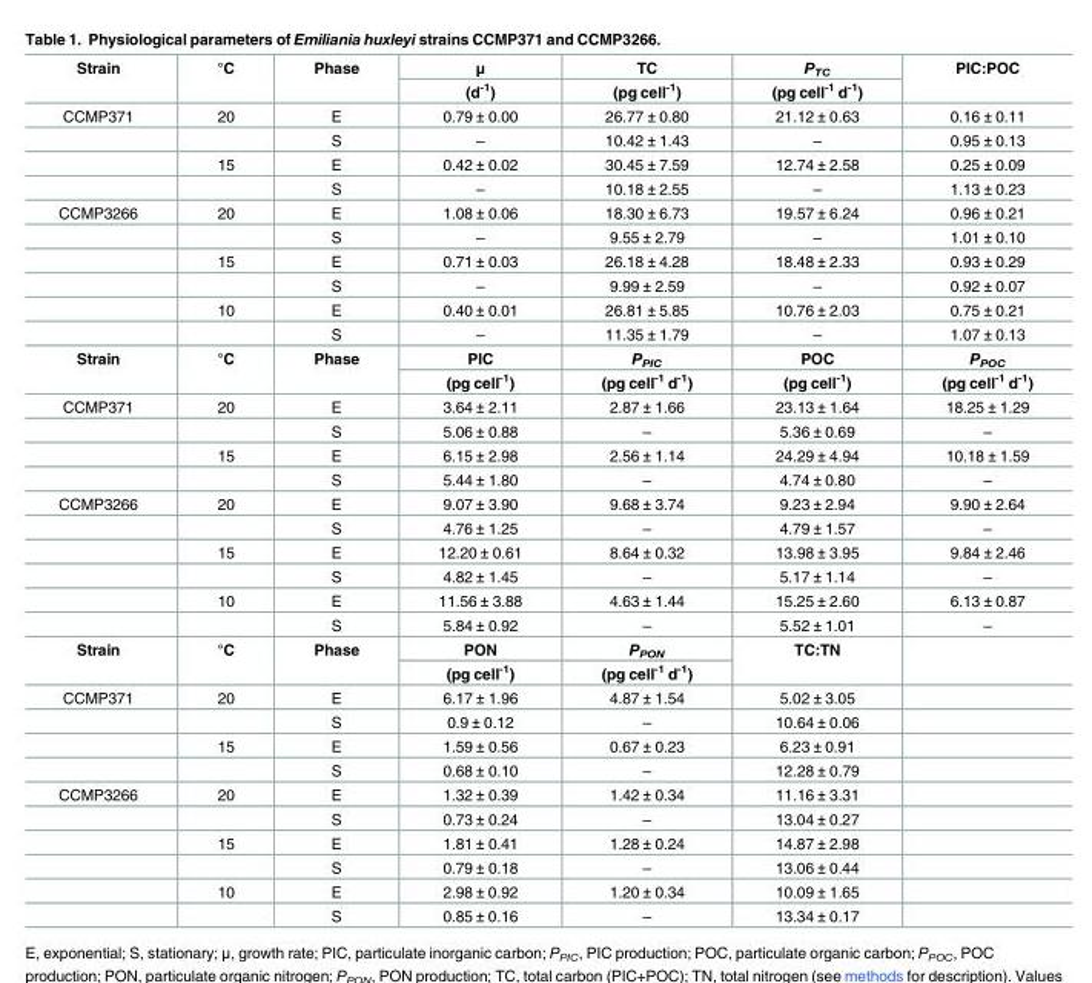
<table><tbody><tr><td rowspan="2">Strain</td><td rowspan="2">°C</td><td rowspan="2">Phase</td><td>μ</td><td>TC</td><td>P<sub>TC</sub></td><td rowspan="2">PIC:POC</td></tr><tr><td>(d<sup>-1</sup>)</td><td>(pg cell<sup>-1</sup>)</td><td>(pg cell<sup>-1</sup> d<sup>-1</sup>)</td></tr><tr><td rowspan="4">CCMP371</td><td>20</td><td>E</td><td>0.79 ± 0.00</td><td>26.77 ± 0.80</td><td>21.12 ± 0.63</td><td>0.16 ± 0.11</td></tr><tr><td></td><td>S</td><td>–</td><td>10.42 ± 1.43</td><td>–</td><td>0.95 ± 0.13</td></tr><tr><td>15</td><td>E</td><td>0.42 ± 0.02</td><td>30.45 ± 7.59</td><td>12.74 ± 2.58</td><td>0.25 ± 0.09</td></tr><tr><td></td><td>S</td><td>–</td><td>10.18 ± 2.55</td><td>–</td><td>1.13 ± 0.23</td></tr><tr><td rowspan="6">CCMP3266</td><td>20</td><td>E</td><td>1.08 ± 0.06</td><td>18.30 ± 6.73</td><td>19.57 ± 6.24</td><td>0.96 ± 0.21</td></tr><tr><td></td><td>S</td><td>–</td><td>9.55 ± 2.79</td><td>–</td><td>1.01 ± 0.10</td></tr><tr><td>15</td><td>E</td><td>0.71 ± 0.03</td><td>26.18 ± 4.28</td><td>18.48 ± 2.33</td><td>0.93 ± 0.29</td></tr><tr><td></td><td>S</td><td>–</td><td>9.99 ± 2.59</td><td>–</td><td>0.92 ± 0.07</td></tr><tr><td>10</td><td>E</td><td>0.40 ± 0.01</td><td>26.81 ± 5.85</td><td>10.76 ± 2.03</td><td>0.75 ± 0.21</td></tr><tr><td></td><td>S</td><td>–</td><td>11.35 ± 1.79</td><td>–</td><td>1.07 ± 0.13</td></tr><tr><td rowspan="2">Strain</td><td rowspan="2">°C</td><td rowspan="2">Phase</td><td>PIC</td><td>P<sub>PIC</sub></td><td>POC</td><td>P<sub>POC</sub></td></tr><tr><td>(pg cell<sup>-1</sup>)</td><td>(pg cell<sup>-1</sup> d<sup>-1</sup>)</td><td>(pg cell<sup>-1</sup>)</td><td>(pg cell<sup>-1</sup> d<sup>-1</sup>)</td></tr><tr><td rowspan="4">CCMP371</td><td>20</td><td>E</td><td>3.64 ± 2.11</td><td>2.87 ± 1.66</td><td>23.13 ± 1.64</td><td>18.25 ± 1.29</td></tr><tr><td></td><td>S</td><td>5.06 ± 0.88</td><td>–</td><td>5.36 ± 0.69</td><td>–</td></tr><tr><td>15</td><td>E</td><td>6.15 ± 2.98</td><td>2.56 ± 1.14</td><td>24.29 ± 4.94</td><td>10.18 ± 1.59</td></tr><tr><td></td><td>S</td><td>5.44 ± 1.80</td><td>–</td><td>4.74 ± 0.80</td><td>–</td></tr><tr><td rowspan="6">CCMP3266</td><td>20</td><td>E</td><td>9.07 ± 3.90</td><td>9.68 ± 3.74</td><td>9.23 ± 2.94</td><td>9.90 ± 2.64</td></tr><tr><td></td><td>S</td><td>4.76 ± 1.25</td><td>–</td><td>4.79 ± 1.57</td><td>–</td></tr><tr><td>15</td><td>E</td><td>12.20 ± 0.61</td><td>8.64 ± 0.32</td><td>13.98 ± 3.95</td><td>9.84 ± 2.46</td></tr><tr><td></td><td>S</td><td>4.82 ± 1.45</td><td>–</td><td>5.17 ± 1.14</td><td>–</td></tr><tr><td>10</td><td>E</td><td>11.56 ± 3.88</td><td>4.63 ± 1.44</td><td>15.25 ± 2.60</td><td>6.13 ± 0.87</td></tr><tr><td></td><td>S</td><td>5.84 ± 0.92</td><td>–</td><td>5.52 ± 1.01</td><td>–</td></tr><tr><td rowspan="2">Strain</td><td rowspan="2">°C</td><td rowspan="2">Phase</td><td>PON</td><td>P<sub>PON</sub></td><td rowspan="2">TC:TN</td><td rowspan="2"></td></tr><tr><td>(pg cell<sup>-1</sup>)</td><td>(pg cell<sup>-1</sup> d<sup>-1</sup>)</td></tr><tr><td rowspan="4">CCMP371</td><td>20</td><td>E</td><td>6.17 ± 1.96</td><td>4.87 ± 1.54</td><td>5.02 ± 3.05</td><td></td></tr><tr><td></td><td>S</td><td>0.9 ± 0.12</td><td>–</td><td>10.64 ± 0.06</td><td></td></tr><tr><td>15</td><td>E</td><td>1.59 ± 0.56</td><td>0.67 ± 0.23</td><td>6.23 ± 0.91</td><td></td></tr><tr><td></td><td>S</td><td>0.68 ± 0.10</td><td>–</td><td>12.28 ± 0.79</td><td></td></tr><tr><td rowspan="6">CCMP3266</td><td>20</td><td>E</td><td>1.32 ± 0.39</td><td>1.42 ± 0.34</td><td>11.16 ± 3.31</td><td></td></tr><tr><td></td><td>S</td><td>0.73 ± 0.24</td><td>–</td><td>13.04 ± 0.27</td><td></td></tr><tr><td>15</td><td>E</td><td>1.81 ± 0.41</td><td>1.28 ± 0.24</td><td>14.87 ± 2.98</td><td></td></tr><tr><td></td><td>S</td><td>0.79 ± 0.18</td><td>–</td><td>13.06 ± 0.44</td><td></td></tr><tr><td>10</td><td>E</td><td>2.98 ± 0.92</td><td>1.20 ± 0.34</td><td>10.09 ± 1.65</td><td></td></tr><tr><td></td><td>S</td><td>0.85 ± 0.16</td><td>–</td><td>13.34 ± 0.17</td><td></td></tr></tbody></table>